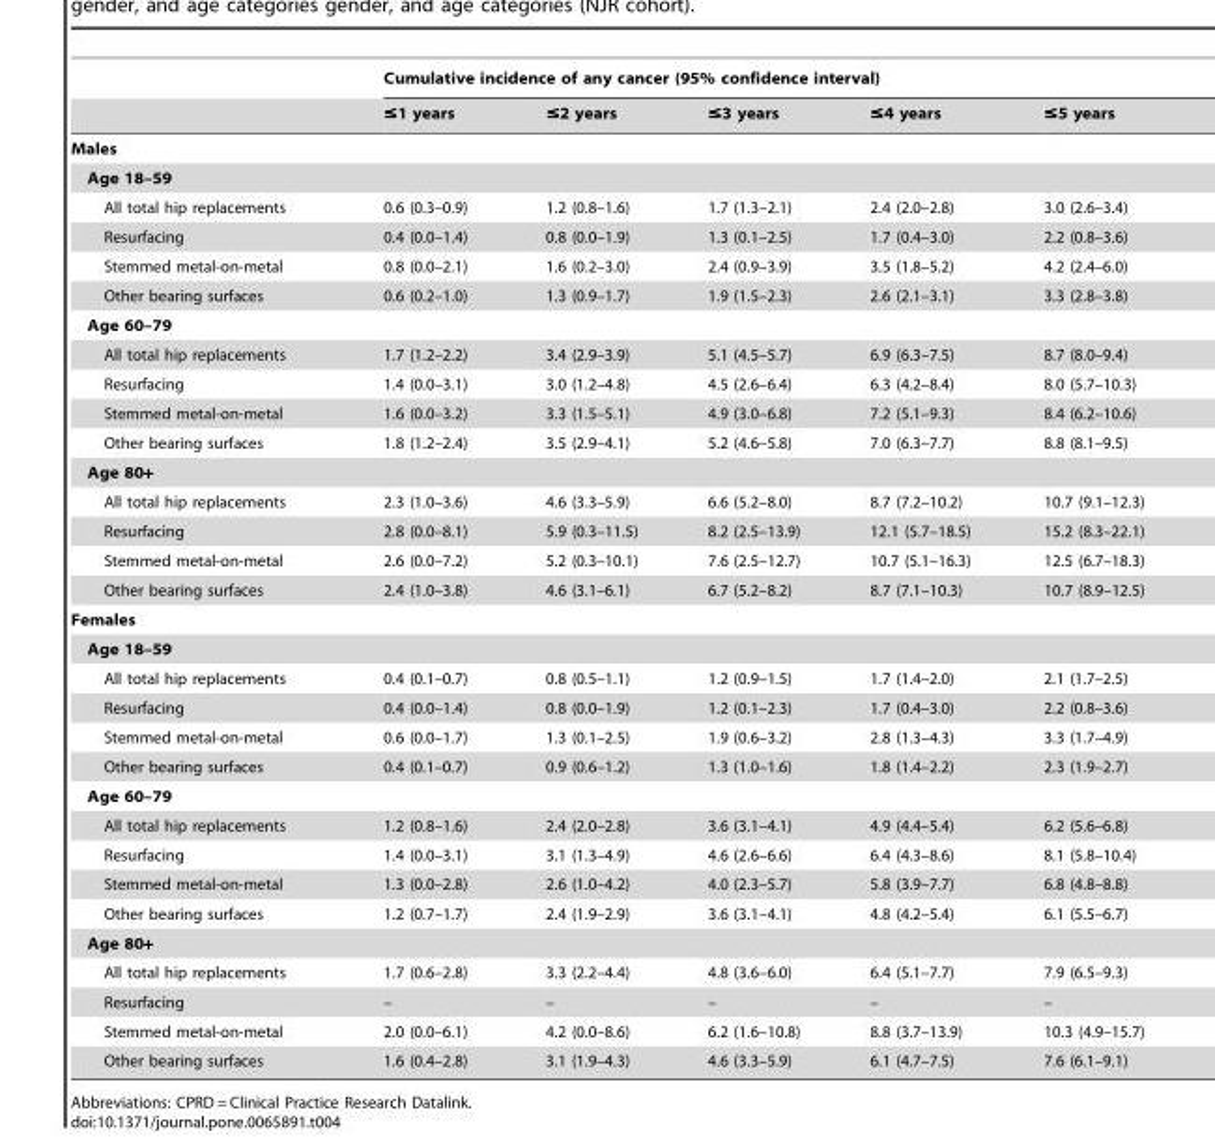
<table><thead><tr><td rowspan="2"></td><td colspan="5">Cumulative incidence of any cancer (95% confidence interval)</td></tr><tr><td>≤1 years</td><td>≤2 years</td><td>≤3 years</td><td>≤4 years</td><td>≤5 years</td></tr></thead><tbody><tr><td colspan="6">Males</td></tr><tr><td colspan="6">Age 18–59</td></tr><tr><td>All total hip replacements</td><td>0.6 (0.3–0.9)</td><td>1.2 (0.8–1.6)</td><td>1.7 (1.3–2.1)</td><td>2.4 (2.0–2.8)</td><td>3.0 (2.6–3.4)</td></tr><tr><td>Resurfacing</td><td>0.4 (0.0–1.4)</td><td>0.8 (0.0–1.9)</td><td>1.3 (0.1–2.5)</td><td>1.7 (0.4–3.0)</td><td>2.2 (0.8–3.6)</td></tr><tr><td>Stemmed metal-on-metal</td><td>0.8 (0.0–2.1)</td><td>1.6 (0.2–3.0)</td><td>2.4 (0.9–3.9)</td><td>3.5 (1.8–5.2)</td><td>4.2 (2.4–6.0)</td></tr><tr><td>Other bearing surfaces</td><td>0.6 (0.2–1.0)</td><td>1.3 (0.9–1.7)</td><td>1.9 (1.5–2.3)</td><td>2.6 (2.1–3.1)</td><td>3.3 (2.8–3.8)</td></tr><tr><td colspan="6">Age 60–79</td></tr><tr><td>All total hip replacements</td><td>1.7 (1.2–2.2)</td><td>3.4 (2.9–3.9)</td><td>5.1 (4.5–5.7)</td><td>6.9 (6.3–7.5)</td><td>8.7 (8.0–9.4)</td></tr><tr><td>Resurfacing</td><td>1.4 (0.0–3.1)</td><td>3.0 (1.2–4.8)</td><td>4.5 (2.6–6.4)</td><td>6.3 (4.2–8.4)</td><td>8.0 (5.7–10.3)</td></tr><tr><td>Stemmed metal-on-metal</td><td>1.6 (0.0–3.2)</td><td>3.3 (1.5–5.1)</td><td>4.9 (3.0–6.8)</td><td>7.2 (5.1–9.3)</td><td>8.4 (6.2–10.6)</td></tr><tr><td>Other bearing surfaces</td><td>1.8 (1.2–2.4)</td><td>3.5 (2.9–4.1)</td><td>5.2 (4.6–5.8)</td><td>7.0 (6.3–7.7)</td><td>8.8 (8.1–9.5)</td></tr><tr><td colspan="6">Age 80+</td></tr><tr><td>All total hip replacements</td><td>2.3 (1.0–3.6)</td><td>4.6 (3.3–5.9)</td><td>6.6 (5.2–8.0)</td><td>8.7 (7.2–10.2)</td><td>10.7 (9.1–12.3)</td></tr><tr><td>Resurfacing</td><td>2.8 (0.0–8.1)</td><td>5.9 (0.3–11.5)</td><td>8.2 (2.5–13.9)</td><td>12.1 (5.7–18.5)</td><td>15.2 (8.3–22.1)</td></tr><tr><td>Stemmed metal-on-metal</td><td>2.6 (0.0–7.2)</td><td>5.2 (0.3–10.1)</td><td>7.6 (2.5–12.7)</td><td>10.7 (5.1–16.3)</td><td>12.5 (6.7–18.3)</td></tr><tr><td>Other bearing surfaces</td><td>2.4 (1.0–3.8)</td><td>4.6 (3.1–6.1)</td><td>6.7 (5.2–8.2)</td><td>8.7 (7.1–10.3)</td><td>10.7 (8.9–12.5)</td></tr><tr><td colspan="6">Females</td></tr><tr><td colspan="6">Age 18–59</td></tr><tr><td>All total hip replacements</td><td>0.4 (0.1–0.7)</td><td>0.8 (0.5–1.1)</td><td>1.2 (0.9–1.5)</td><td>1.7 (1.4–2.0)</td><td>2.1 (1.7–2.5)</td></tr><tr><td>Resurfacing</td><td>0.4 (0.0–1.4)</td><td>0.8 (0.0–1.9)</td><td>1.2 (0.1–2.3)</td><td>1.7 (0.4–3.0)</td><td>2.2 (0.8–3.6)</td></tr><tr><td>Stemmed metal-on-metal</td><td>0.6 (0.0–1.7)</td><td>1.3 (0.1–2.5)</td><td>1.9 (0.6–3.2)</td><td>2.8 (1.3–4.3)</td><td>3.3 (1.7–4.9)</td></tr><tr><td>Other bearing surfaces</td><td>0.4 (0.1–0.7)</td><td>0.9 (0.6–1.2)</td><td>1.3 (1.0–1.6)</td><td>1.8 (1.4–2.2)</td><td>2.3 (1.9–2.7)</td></tr><tr><td colspan="6">Age 60–79</td></tr><tr><td>All total hip replacements</td><td>1.2 (0.8–1.6)</td><td>2.4 (2.0–2.8)</td><td>3.6 (3.1–4.1)</td><td>4.9 (4.4–5.4)</td><td>6.2 (5.6–6.8)</td></tr><tr><td>Resurfacing</td><td>1.4 (0.0–3.1)</td><td>3.1 (1.3–4.9)</td><td>4.6 (2.6–6.6)</td><td>6.4 (4.3–8.6)</td><td>8.1 (5.8–10.4)</td></tr><tr><td>Stemmed metal-on-metal</td><td>1.3 (0.0–2.8)</td><td>2.6 (1.0–4.2)</td><td>4.0 (2.3–5.7)</td><td>5.8 (3.9–7.7)</td><td>6.8 (4.8–8.8)</td></tr><tr><td>Other bearing surfaces</td><td>1.2 (0.7–1.7)</td><td>2.4 (1.9–2.9)</td><td>3.6 (3.1–4.1)</td><td>4.8 (4.2–5.4)</td><td>6.1 (5.5–6.7)</td></tr><tr><td colspan="6">Age 80+</td></tr><tr><td>All total hip replacements</td><td>1.7 (0.6–2.8)</td><td>3.3 (2.2–4.4)</td><td>4.8 (3.6–6.0)</td><td>6.4 (5.1–7.7)</td><td>7.9 (6.5–9.3)</td></tr><tr><td>Resurfacing</td><td>–</td><td>–</td><td>–</td><td>–</td><td>–</td></tr><tr><td>Stemmed metal-on-metal</td><td>2.0 (0.0–6.1)</td><td>4.2 (0.0–8.6)</td><td>6.2 (1.6–10.8)</td><td>8.8 (3.7–13.9)</td><td>10.3 (4.9–15.7)</td></tr><tr><td>Other bearing surfaces</td><td>1.6 (0.4–2.8)</td><td>3.1 (1.9–4.3)</td><td>4.6 (3.3–5.9)</td><td>6.1 (4.7–7.5)</td><td>7.6 (6.1–9.1)</td></tr></tbody></table>